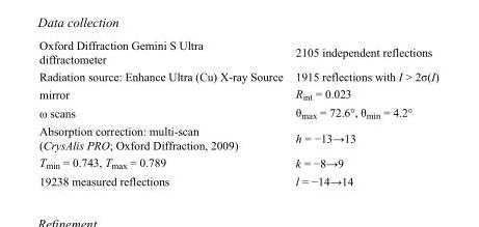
<table><tbody><tr><td>Oxford Diffraction Gemini S Ultra diffractometer</td><td>2105 independent reflections</td></tr><tr><td>Radiation source: Enhance Ultra (Cu) X-ray Source</td><td>1915 reflections with I &gt; 2σ(I)</td></tr><tr><td>mirror</td><td>R<sub>int</sub> = 0.023</td></tr><tr><td>ω scans</td><td>θ<sub>max</sub> = 72.6°, θ<sub>min</sub> = 4.2°</td></tr><tr><td>Absorption correction: multi-scan (CrysAlis PRO; Oxford Diffraction, 2009)</td><td>h = −13→13</td></tr><tr><td>T<sub>min</sub> = 0.743, T<sub>max</sub> = 0.789</td><td>k = −8→9</td></tr><tr><td>19238 measured reflections</td><td>l = −14→14</td></tr></tbody></table>